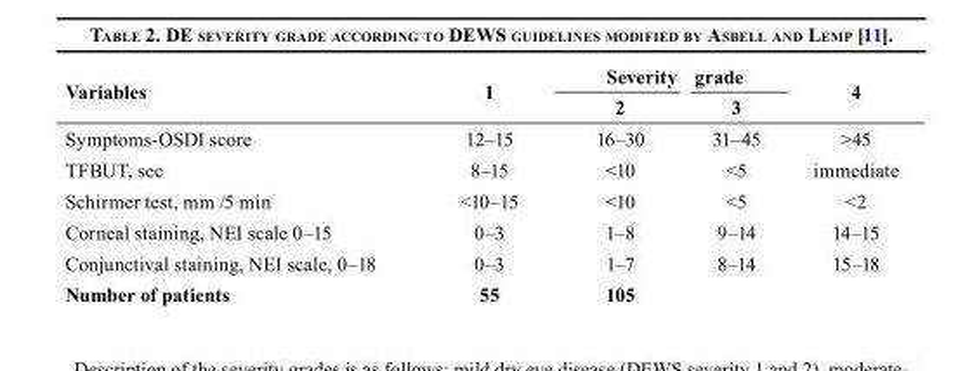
<table><thead><tr><td rowspan="2">Variables</td><td rowspan="2">1</td><td rowspan="2">Severity 2</td><td rowspan="2">grade 3</td><td rowspan="2">4</td></tr><tr></tr></thead><tbody><tr><td>Symptoms-OSDI score</td><td>12–15</td><td>16–30</td><td>31–45</td><td>&gt;45</td></tr><tr><td>TFBUT, sec</td><td>8–15</td><td>&lt;10</td><td>&lt;5</td><td>immediate</td></tr><tr><td>Schirmer test, mm /5 min</td><td>&lt;10–15</td><td>&lt;10</td><td>&lt;5</td><td>&lt;2</td></tr><tr><td>Corneal staining, NEI scale 0–15</td><td>0–3</td><td>1–8</td><td>9–14</td><td>14–15</td></tr><tr><td>Conjunctival staining, NEI scale, 0–18</td><td>0–3</td><td>1–7</td><td>8–14</td><td>15–18</td></tr><tr><td>Number of patients</td><td>55</td><td>105</td><td></td><td></td></tr></tbody></table>